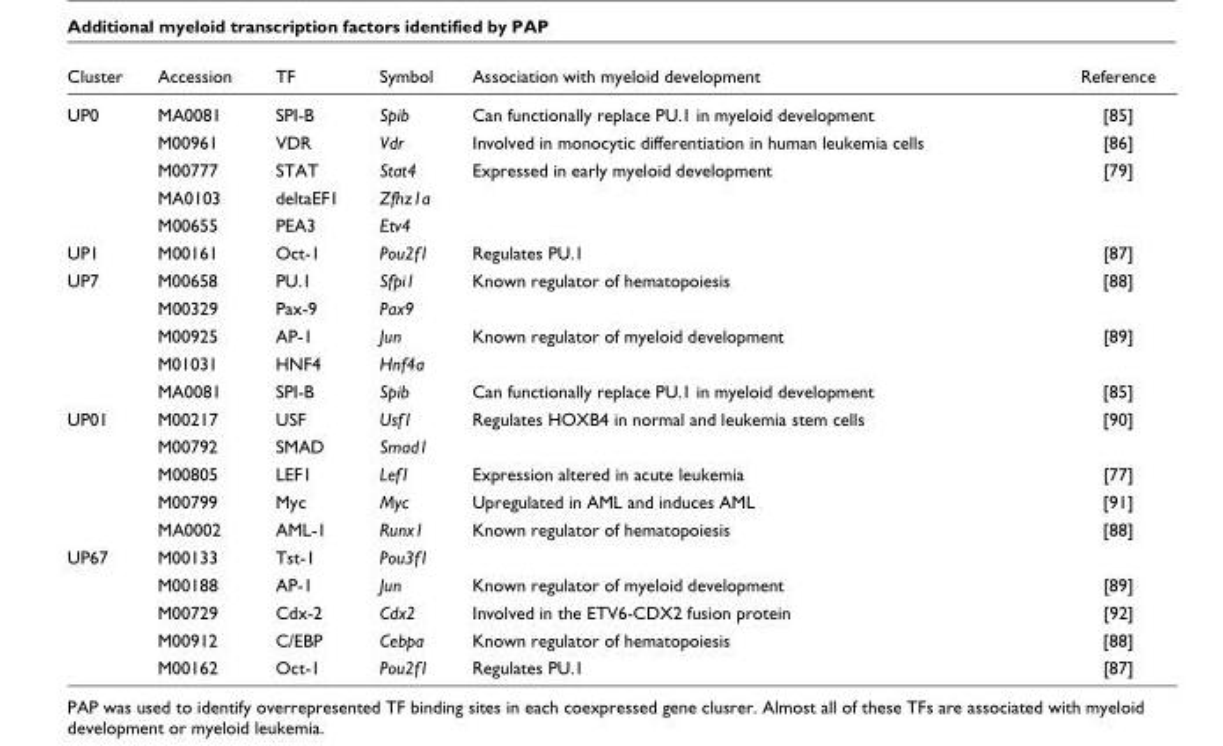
<table><thead><tr><td>Cluster</td><td>Accession</td><td>TF</td><td>Symbol</td><td>Association with myeloid development</td><td>Reference</td></tr></thead><tbody><tr><td rowspan="5">UP0</td><td>MA0081</td><td>SPI-B</td><td>Spib</td><td>Can functionally replace PU.1 in myeloid development</td><td>[85]</td></tr><tr><td>M00961</td><td>VDR</td><td>Vdr</td><td>Involved in monocytic differentiation in human leukemia cells</td><td>[86]</td></tr><tr><td>M00777</td><td>STAT</td><td>Stat4</td><td>Expressed in early myeloid development</td><td>[79]</td></tr><tr><td>MA0103</td><td>deltaEF1</td><td>Zfhz1a</td><td></td><td></td></tr><tr><td>M00655</td><td>PEA3</td><td>Etv4</td><td></td><td></td></tr><tr><td>UP1</td><td>M00161</td><td>Oct-1</td><td>Pou2f1</td><td>Regulates PU.1</td><td>[87]</td></tr><tr><td rowspan="5">UP7</td><td>M00658</td><td>PU.1</td><td>Sfpi1</td><td>Known regulator of hematopoiesis</td><td>[88]</td></tr><tr><td>M00329</td><td>Pax-9</td><td>Pax9</td><td></td><td></td></tr><tr><td>M00925</td><td>AP-1</td><td>Jun</td><td>Known regulator of myeloid development</td><td>[89]</td></tr><tr><td>M01031</td><td>HNF4</td><td>Hnf4a</td><td></td><td></td></tr><tr><td>MA0081</td><td>SPI-B</td><td>Spib</td><td>Can functionally replace PU.1 in myeloid development</td><td>[85]</td></tr><tr><td rowspan="5">UP01</td><td>M00217</td><td>USF</td><td>Usf1</td><td>Regulates HOXB4 in normal and leukemia stem cells</td><td>[90]</td></tr><tr><td>M00792</td><td>SMAD</td><td>Smad1</td><td></td><td></td></tr><tr><td>M00805</td><td>LEF1</td><td>Lef1</td><td>Expression altered in acute leukemia</td><td>[77]</td></tr><tr><td>M00799</td><td>Myc</td><td>Myc</td><td>Upregulated in AML and induces AML</td><td>[91]</td></tr><tr><td>MA0002</td><td>AML-1</td><td>Runx1</td><td>Known regulator of hematopoiesis</td><td>[88]</td></tr><tr><td rowspan="5">UP67</td><td>M00133</td><td>Tst-1</td><td>Pou3f1</td><td></td><td></td></tr><tr><td>M00188</td><td>AP-1</td><td>Jun</td><td>Known regulator of myeloid development</td><td>[89]</td></tr><tr><td>M00729</td><td>Cdx-2</td><td>Cdx2</td><td>Involved in the ETV6-CDX2 fusion protein</td><td>[92]</td></tr><tr><td>M00912</td><td>C/EBP</td><td>Cebpa</td><td>Known regulator of hematopoiesis</td><td>[88]</td></tr><tr><td>M00162</td><td>Oct-1</td><td>Pou2f1</td><td>Regulates PU.1</td><td>[87]</td></tr></tbody></table>